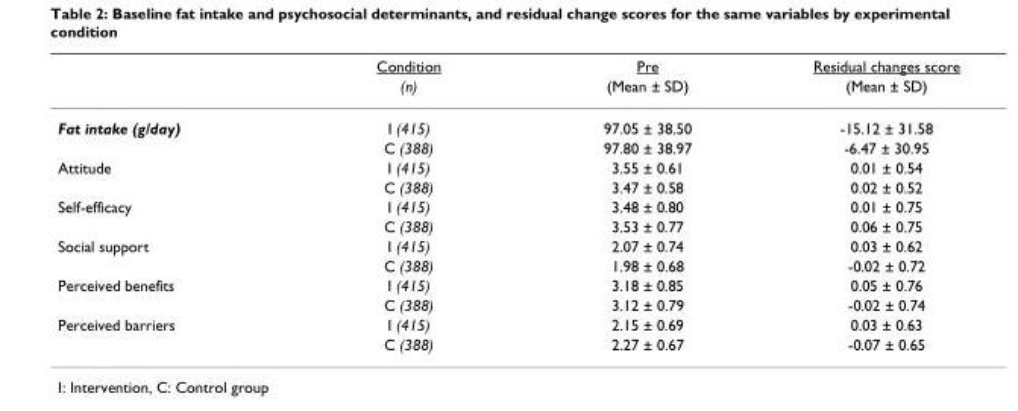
<table><thead><tr><td rowspan="2"></td><td rowspan="2">Condition (n)</td><td rowspan="2">Pre (Mean ± SD)</td><td rowspan="2">Residual changes score (Mean ± SD)</td></tr><tr></tr></thead><tbody><tr><td rowspan="2">Fat intake (g/day)</td><td>I (415)</td><td>97.05 ± 38.50</td><td>-15.12 ± 31.58</td></tr><tr><td>C (388)</td><td>97.80 ± 38.97</td><td>-6.47 ± 30.95</td></tr><tr><td rowspan="2">Attitude</td><td>I (415)</td><td>3.55 ± 0.61</td><td>0.01 ± 0.54</td></tr><tr><td>C (388)</td><td>3.47 ± 0.58</td><td>0.02 ± 0.52</td></tr><tr><td rowspan="2">Self-efficacy</td><td>I (415)</td><td>3.48 ± 0.80</td><td>0.01 ± 0.75</td></tr><tr><td>C (388)</td><td>3.53 ± 0.77</td><td>0.06 ± 0.75</td></tr><tr><td rowspan="2">Social support</td><td>I (415)</td><td>2.07 ± 0.74</td><td>0.03 ± 0.62</td></tr><tr><td>C (388)</td><td>1.98 ± 0.68</td><td>-0.02 ± 0.72</td></tr><tr><td rowspan="2">Perceived benefits</td><td>I (415)</td><td>3.18 ± 0.85</td><td>0.05 ± 0.76</td></tr><tr><td>C (388)</td><td>3.12 ± 0.79</td><td>-0.02 ± 0.74</td></tr><tr><td rowspan="2">Perceived barriers</td><td>I (415)</td><td>2.15 ± 0.69</td><td>0.03 ± 0.63</td></tr><tr><td>C (388)</td><td>2.27 ± 0.67</td><td>-0.07 ± 0.65</td></tr></tbody></table>